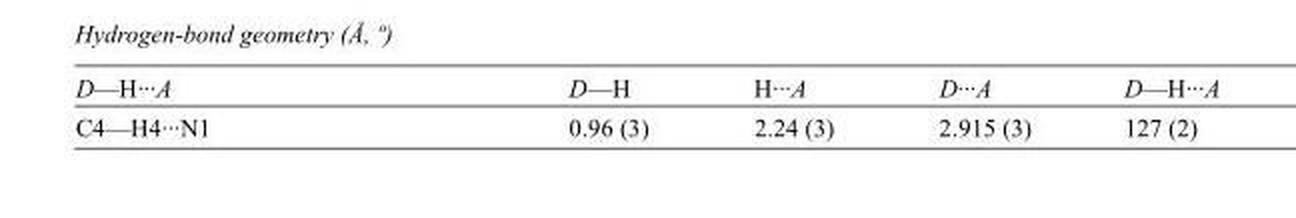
<table><tbody><tr><td>D—H···A</td><td>D—H</td><td>H···A</td><td>D···A</td><td>D—H···A</td></tr><tr><td>C4—H4···N1</td><td>0.96 (3)</td><td>2.24 (3)</td><td>2.915 (3)</td><td>127 (2)</td></tr></tbody></table>